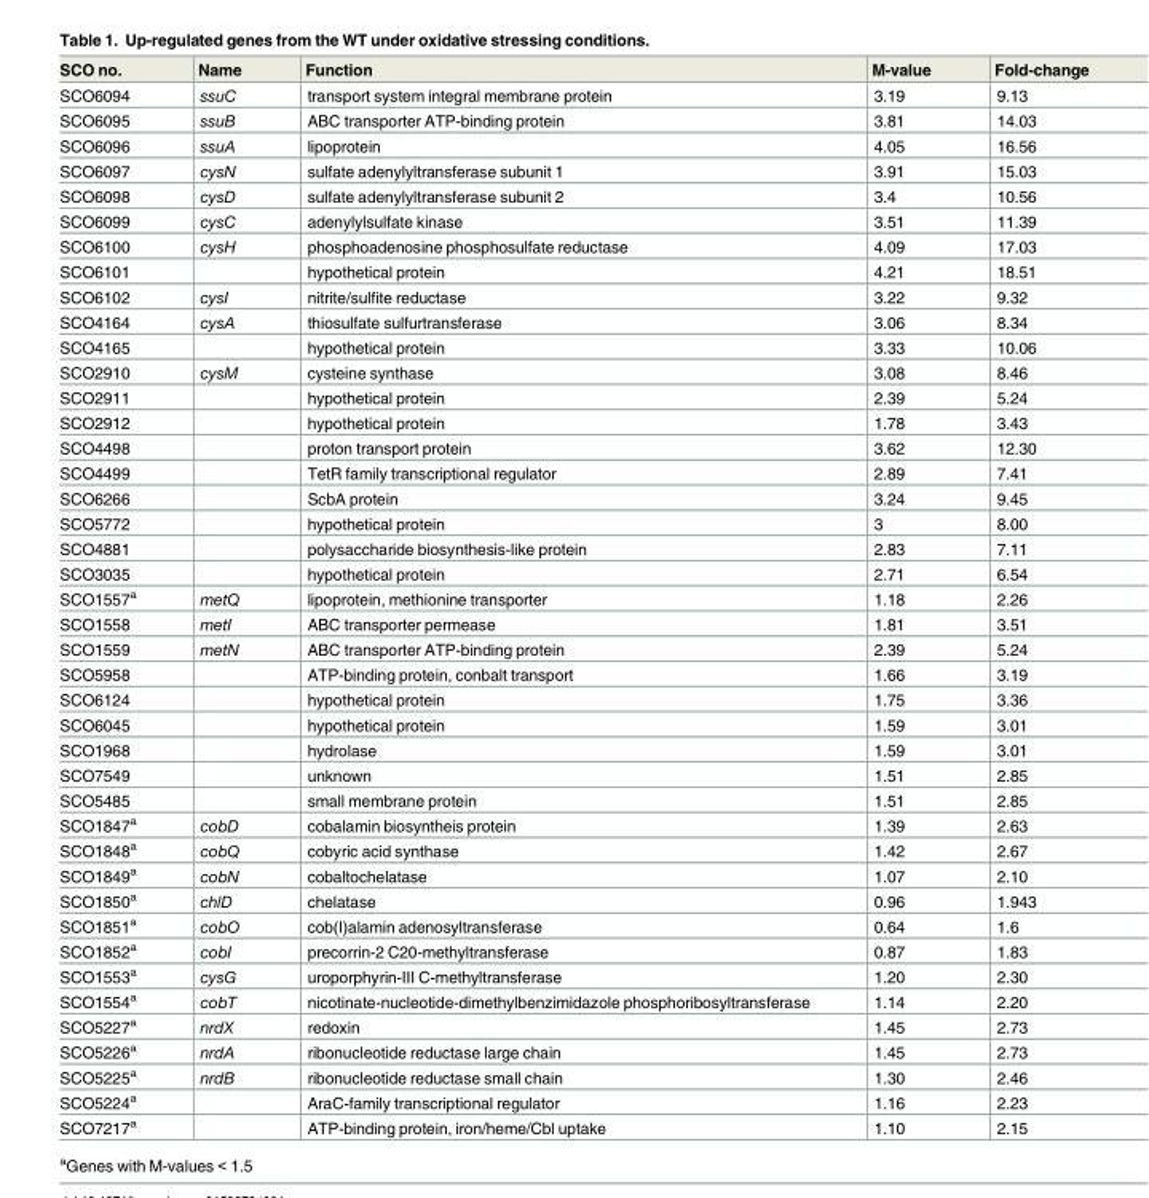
<table><thead><tr><td>SCO no.</td><td>Name</td><td>Function</td><td>M-value</td><td>Fold-change</td></tr></thead><tbody><tr><td>SCO6094</td><td>ssuC</td><td>transport system integral membrane protein</td><td>3.19</td><td>9.13</td></tr><tr><td>SCO6095</td><td>ssuB</td><td>ABC transporter ATP-binding protein</td><td>3.81</td><td>14.03</td></tr><tr><td>SCO6096</td><td>ssuA</td><td>lipoprotein</td><td>4.05</td><td>16.56</td></tr><tr><td>SCO6097</td><td>cysN</td><td>sulfate adenylyltransferase subunit 1</td><td>3.91</td><td>15.03</td></tr><tr><td>SCO6098</td><td>cysD</td><td>sulfate adenylyltransferase subunit 2</td><td>3.4</td><td>10.56</td></tr><tr><td>SCO6099</td><td>cysC</td><td>adenylylsulfate kinase</td><td>3.51</td><td>11.39</td></tr><tr><td>SCO6100</td><td>cysH</td><td>phosphoadenosine phosphosulfate reductase</td><td>4.09</td><td>17.03</td></tr><tr><td>SCO6101</td><td></td><td>hypothetical protein</td><td>4.21</td><td>18.51</td></tr><tr><td>SCO6102</td><td>cysI</td><td>nitrite/sulfite reductase</td><td>3.22</td><td>9.32</td></tr><tr><td>SCO4164</td><td>cysA</td><td>thiosulfate sulfurtransferase</td><td>3.06</td><td>8.34</td></tr><tr><td>SCO4165</td><td></td><td>hypothetical protein</td><td>3.33</td><td>10.06</td></tr><tr><td>SCO2910</td><td>cysM</td><td>cysteine synthase</td><td>3.08</td><td>8.46</td></tr><tr><td>SCO2911</td><td></td><td>hypothetical protein</td><td>2.39</td><td>5.24</td></tr><tr><td>SCO2912</td><td></td><td>hypothetical protein</td><td>1.78</td><td>3.43</td></tr><tr><td>SCO4498</td><td></td><td>proton transport protein</td><td>3.62</td><td>12.30</td></tr><tr><td>SCO4499</td><td></td><td>TetR family transcriptional regulator</td><td>2.89</td><td>7.41</td></tr><tr><td>SCO6266</td><td></td><td>ScbA protein</td><td>3.24</td><td>9.45</td></tr><tr><td>SCO5772</td><td></td><td>hypothetical protein</td><td>3</td><td>8.00</td></tr><tr><td>SCO4881</td><td></td><td>polysaccharide biosynthesis-like protein</td><td>2.83</td><td>7.11</td></tr><tr><td>SCO3035</td><td></td><td>hypothetical protein</td><td>2.71</td><td>6.54</td></tr><tr><td>SCO1557<sup>a</sup></td><td>metQ</td><td>lipoprotein, methionine transporter</td><td>1.18</td><td>2.26</td></tr><tr><td>SCO1558</td><td>metI</td><td>ABC transporter permease</td><td>1.81</td><td>3.51</td></tr><tr><td>SCO1559</td><td>metN</td><td>ABC transporter ATP-binding protein</td><td>2.39</td><td>5.24</td></tr><tr><td>SCO5958</td><td></td><td>ATP-binding protein, conbalt transport</td><td>1.66</td><td>3.19</td></tr><tr><td>SCO6124</td><td></td><td>hypothetical protein</td><td>1.75</td><td>3.36</td></tr><tr><td>SCO6045</td><td></td><td>hypothetical protein</td><td>1.59</td><td>3.01</td></tr><tr><td>SCO1968</td><td></td><td>hydrolase</td><td>1.59</td><td>3.01</td></tr><tr><td>SCO7549</td><td></td><td>unknown</td><td>1.51</td><td>2.85</td></tr><tr><td>SCO5485</td><td></td><td>small membrane protein</td><td>1.51</td><td>2.85</td></tr><tr><td>SCO1847<sup>a</sup></td><td>cobD</td><td>cobalamin biosyntheis protein</td><td>1.39</td><td>2.63</td></tr><tr><td>SCO1848<sup>a</sup></td><td>cobQ</td><td>cobyric acid synthase</td><td>1.42</td><td>2.67</td></tr><tr><td>SCO1849<sup>a</sup></td><td>cobN</td><td>cobaltochelatase</td><td>1.07</td><td>2.10</td></tr><tr><td>SCO1850<sup>a</sup></td><td>chlD</td><td>chelatase</td><td>0.96</td><td>1.943</td></tr><tr><td>SCO1851<sup>a</sup></td><td>cobO</td><td>cob(I)alamin adenosyltransferase</td><td>0.64</td><td>1.6</td></tr><tr><td>SCO1852<sup>a</sup></td><td>cobI</td><td>precorrin-2 C20-methyltransferase</td><td>0.87</td><td>1.83</td></tr><tr><td>SCO1553<sup>a</sup></td><td>cysG</td><td>uroporphyrin-III C-methyltransferase</td><td>1.20</td><td>2.30</td></tr><tr><td>SCO1554<sup>a</sup></td><td>cobT</td><td>nicotinate-nucleotide-dimethylbenzimidazole phosphoribosyltransferase</td><td>1.14</td><td>2.20</td></tr><tr><td>SCO5227<sup>a</sup></td><td>nrdX</td><td>redoxin</td><td>1.45</td><td>2.73</td></tr><tr><td>SCO5226<sup>a</sup></td><td>nrdA</td><td>ribonucleotide reductase large chain</td><td>1.45</td><td>2.73</td></tr><tr><td>SCO5225<sup>a</sup></td><td>nrdB</td><td>ribonucleotide reductase small chain</td><td>1.30</td><td>2.46</td></tr><tr><td>SCO5224<sup>a</sup></td><td></td><td>AraC-family transcriptional regulator</td><td>1.16</td><td>2.23</td></tr><tr><td>SCO7217<sup>a</sup></td><td></td><td>ATP-binding protein, iron/heme/Cbl uptake</td><td>1.10</td><td>2.15</td></tr></tbody></table>